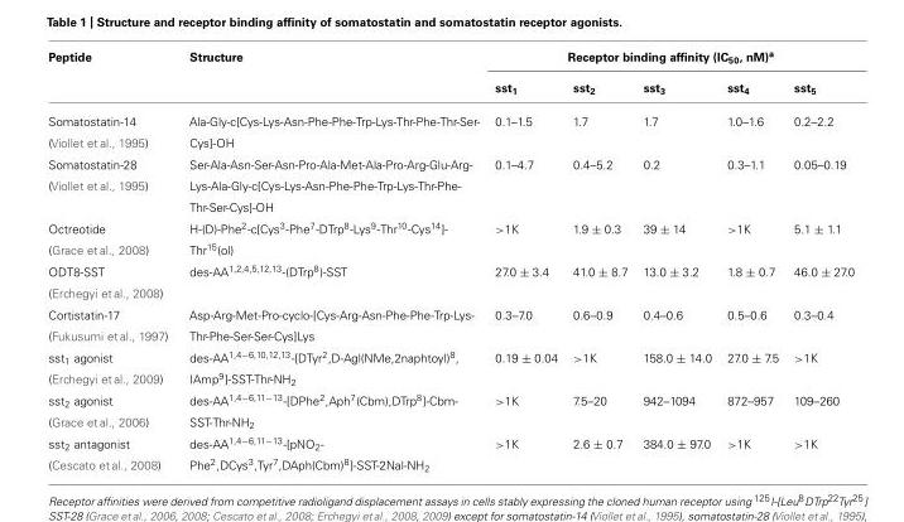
<table><thead><tr><td rowspan="2">Peptide</td><td rowspan="2">Structure</td><td colspan="5">Receptor binding affinity (IC<sub>50</sub>, nM)<sup>a</sup></td></tr><tr><td>sst<sub>1</sub></td><td>sst<sub>2</sub></td><td>sst<sub>3</sub></td><td>sst<sub>4</sub></td><td>sst<sub>5</sub></td></tr></thead><tbody><tr><td>Somatostatin-14 (Viollet et al., 1995)</td><td>Ala-Gly-c[Cys-Lys-Asn-Phe-Phe-Trp-Lys-Thr-Phe-Thr-Ser- Cys]-OH</td><td>0.1–1.5</td><td>1.7</td><td>1.7</td><td>1.0–1.6</td><td>0.2–2.2</td></tr><tr><td>Somatostatin-28 (Viollet et al., 1995)</td><td>Ser-Ala-Asn-Ser-Asn-Pro-Ala-Met-Ala-Pro-Arg-Glu-Arg- Lys-Ala-Gly-c[Cys-Lys-Asn-Phe-Phe-Trp-Lys-Thr-Phe- Thr-Ser-Cys]-OH</td><td>0.1–4.7</td><td>0.4–5.2</td><td>0.2</td><td>0.3–1.1</td><td>0.05–0.19</td></tr><tr><td>Octreotide (Grace et al., 2008)</td><td>H-(D)-Phe<sup>2</sup>-c[Cys<sup>3</sup>-Phe<sup>7</sup>-DTrp<sup>8</sup>-Lys<sup>9</sup>-Thr<sup>10</sup>-Cys<sup>14</sup>]- Thr<sup>15</sup>(ol)</td><td>&gt;1K</td><td>1.9 ± 0.3</td><td>39 ± 14</td><td>&gt;1K</td><td>5.1 ± 1.1</td></tr><tr><td>ODT8-SST (Erchegyi et al., 2008)</td><td>des-AA<sup>1,2,4,5,12,13</sup>-(DTrp<sup>8</sup>)-SST</td><td>27.0 ± 3.4</td><td>41.0 ± 8.7</td><td>13.0 ± 3.2</td><td>1.8 ± 0.7</td><td>46.0 ± 27.0</td></tr><tr><td>Cortistatin-17 (Fukusumi et al., 1997)</td><td>Asp-Arg-Met-Pro-cyclo-[Cys-Arg-Asn-Phe-Phe-Trp-Lys- Thr-Phe-Ser-Ser-Cys]Lys</td><td>0.3–7.0</td><td>0.6–0.9</td><td>0.4–0.6</td><td>0.5–0.6</td><td>0.3–0.4</td></tr><tr><td>sst<sub>1</sub> agonist (Erchegyi et al., 2009)</td><td>des-AA<sup>1,4−6,10,12,13</sup>-[DTyr<sup>2</sup>,D-Agl(NMe,2naphtoyl)<sup>8</sup>, IAmp<sup>9</sup>]-SST-Thr-NH<sub>2</sub></td><td>0.19 ± 0.04</td><td>&gt;1K</td><td>158.0 ± 14.0</td><td>27.0 ± 7.5</td><td>&gt;1K</td></tr><tr><td>sst<sub>2</sub> agonist (Grace et al., 2006)</td><td>des-AA<sup>1,4−6,11−13</sup>-[DPhe<sup>2</sup>,Aph<sup>7</sup>(Cbm),DTrp<sup>8</sup>]-Cbm- SST-Thr-NH<sub>2</sub></td><td>&gt;1K</td><td>7.5–20</td><td>942–1094</td><td>872–957</td><td>109–260</td></tr><tr><td>sst<sub>2</sub> antagonist (Cescato et al., 2008)</td><td>des-AA<sup>1,4−6,11−13</sup>-[pNO<sub>2</sub>- Phe<sup>2</sup>,DCys<sup>3</sup>,Tyr<sup>7</sup>,DAph(Cbm)<sup>8</sup>]-SST-2Nal-NH<sub>2</sub></td><td>&gt;1K</td><td>2.6 ± 0.7</td><td>384.0 ± 97.0</td><td>&gt;1K</td><td>&gt;1K</td></tr></tbody></table>